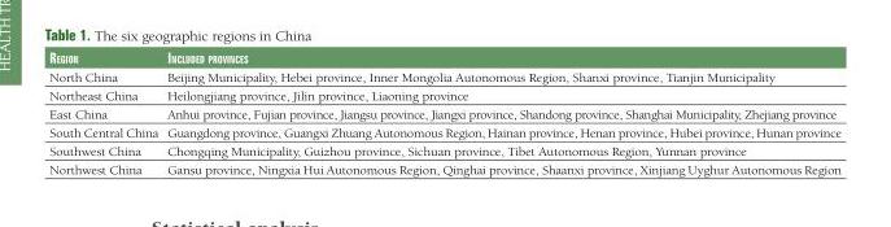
<table><thead><tr><td>Region</td><td>included pRovinces</td></tr></thead><tbody><tr><td>North China</td><td>Beijing Municipality, Hebei province, Inner Mongolia Autonomous Region, Shanxi province, Tianjin Municipality</td></tr><tr><td>Northeast China</td><td>Heilongjiang province, Jilin province, Liaoning province</td></tr><tr><td>East China</td><td>Anhui province, Fujian province, Jiangsu province, Jiangxi province, Shandong province, Shanghai Municipality, Zhejiang province</td></tr><tr><td>South Central China</td><td>Guangdong province, Guangxi Zhuang Autonomous Region, Hainan province, Henan province, Hubei province, Hunan province</td></tr><tr><td>Southwest China</td><td>Chongqing Municipality, Guizhou province, Sichuan province, Tibet Autonomous Region, Yunnan province</td></tr><tr><td>Northwest China</td><td>Gansu province, Ningxia Hui Autonomous Region, Qinghai province, Shaanxi province, Xinjiang Uyghur Autonomous Region</td></tr></tbody></table>